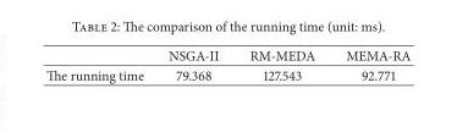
<table><thead><tr><td></td><td>NSGA-II</td><td>RM-MEDA</td><td>MEMA-RA</td></tr></thead><tbody><tr><td>The running time</td><td>79.368</td><td>127.543</td><td>92.771</td></tr></tbody></table>